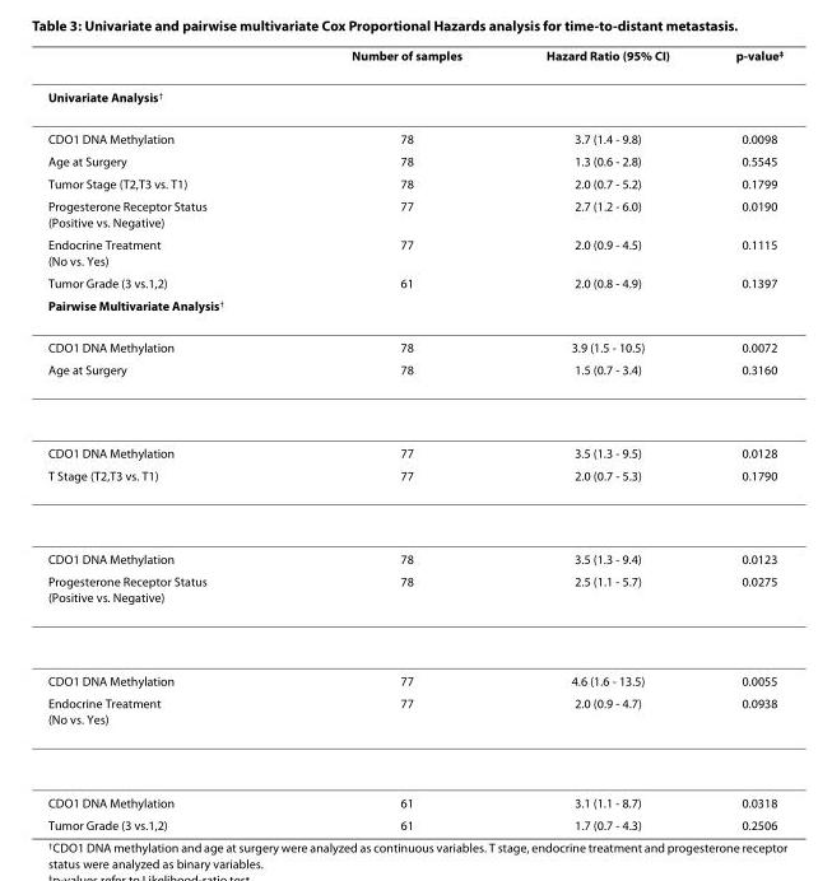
<table><thead><tr><td></td><td>Number of samples</td><td>Hazard Ratio (95% CI)</td><td>p-value<sup>‡</sup></td></tr></thead><tbody><tr><td colspan="4">Univariate Analysis<sup>†</sup></td></tr><tr><td>CDO1 DNA Methylation</td><td>78</td><td>3.7 (1.4 - 9.8)</td><td>0.0098</td></tr><tr><td>Age at Surgery</td><td>78</td><td>1.3 (0.6 - 2.8)</td><td>0.5545</td></tr><tr><td>Tumor Stage (T2,T3 vs. T1)</td><td>78</td><td>2.0 (0.7 - 5.2)</td><td>0.1799</td></tr><tr><td>Progesterone Receptor Status (Positive vs. Negative)</td><td>77</td><td>2.7 (1.2 - 6.0)</td><td>0.0190</td></tr><tr><td>Endocrine Treatment (No vs. Yes)</td><td>77</td><td>2.0 (0.9 - 4.5)</td><td>0.1115</td></tr><tr><td>Tumor Grade (3 vs.1,2)</td><td>61</td><td>2.0 (0.8 - 4.9)</td><td>0.1397</td></tr><tr><td colspan="4">Pairwise Multivariate Analysis<sup>†</sup></td></tr><tr><td>CDO1 DNA Methylation</td><td>78</td><td>3.9 (1.5 - 10.5)</td><td>0.0072</td></tr><tr><td>Age at Surgery</td><td>78</td><td>1.5 (0.7 - 3.4)</td><td>0.3160</td></tr><tr><td>CDO1 DNA Methylation</td><td>77</td><td>3.5 (1.3 - 9.5)</td><td>0.0128</td></tr><tr><td>T Stage (T2,T3 vs. T1)</td><td>77</td><td>2.0 (0.7 - 5.3)</td><td>0.1790</td></tr><tr><td>CDO1 DNA Methylation</td><td>78</td><td>3.5 (1.3 - 9.4)</td><td>0.0123</td></tr><tr><td>Progesterone Receptor Status (Positive vs. Negative)</td><td>78</td><td>2.5 (1.1 - 5.7)</td><td>0.0275</td></tr><tr><td>CDO1 DNA Methylation</td><td>77</td><td>4.6 (1.6 - 13.5)</td><td>0.0055</td></tr><tr><td>Endocrine Treatment (No vs. Yes)</td><td>77</td><td>2.0 (0.9 - 4.7)</td><td>0.0938</td></tr><tr><td>CDO1 DNA Methylation</td><td>61</td><td>3.1 (1.1 - 8.7)</td><td>0.0318</td></tr><tr><td>Tumor Grade (3 vs.1,2)</td><td>61</td><td>1.7 (0.7 - 4.3)</td><td>0.2506</td></tr></tbody></table>